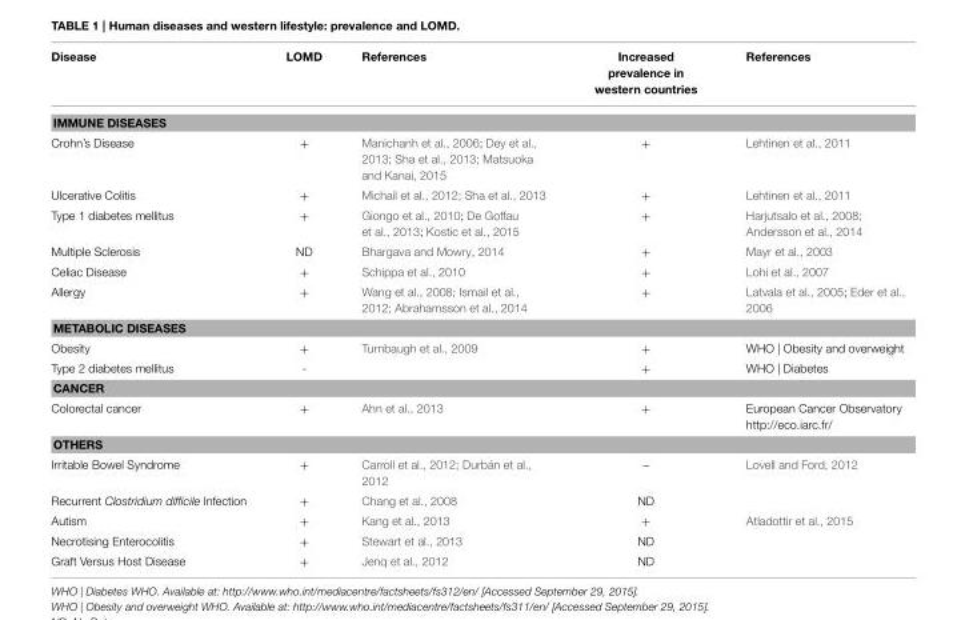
<table><thead><tr><td>Disease</td><td>LOMD</td><td>References</td><td>Increased prevalence in western countries</td><td>References</td></tr></thead><tbody><tr><td colspan="5">IMMUNE DISEASES</td></tr><tr><td>Crohn’s Disease</td><td>+</td><td>Manichanh et al., 2006; Dey et al., 2013; Sha et al., 2013; Matsuoka and Kanai, 2015</td><td>+</td><td>Lehtinen et al., 2011</td></tr><tr><td>Ulcerative Colitis</td><td>+</td><td>Michail et al., 2012; Sha et al., 2013</td><td>+</td><td>Lehtinen et al., 2011</td></tr><tr><td>Type 1 diabetes mellitus</td><td>+</td><td>Giongo et al., 2010; De Goffau et al., 2013; Kostic et al., 2015</td><td>+</td><td>Harjutsalo et al., 2008; Andersson et al., 2014</td></tr><tr><td>Multiple Sclerosis</td><td>ND</td><td>Bhargava and Mowry, 2014</td><td>+</td><td>Mayr et al., 2003</td></tr><tr><td>Celiac Disease</td><td>+</td><td>Schippa et al., 2010</td><td>+</td><td>Lohi et al., 2007</td></tr><tr><td>Allergy</td><td>+</td><td>Wang et al., 2008; Ismail et al., 2012; Abrahamsson et al., 2014</td><td>+</td><td>Latvala et al., 2005; Eder et al., 2006</td></tr><tr><td colspan="5">METABOLIC DISEASES</td></tr><tr><td>Obesity</td><td>+</td><td>Turnbaugh et al., 2009</td><td>+</td><td>WHO | Obesity and overweight</td></tr><tr><td>Type 2 diabetes mellitus</td><td>-</td><td></td><td>+</td><td>WHO | Diabetes</td></tr><tr><td colspan="5">CANCER</td></tr><tr><td>Colorectal cancer</td><td>+</td><td>Ahn et al., 2013</td><td>+</td><td>European Cancer Observatory http://eco.iarc.fr/</td></tr><tr><td colspan="5">OTHERS</td></tr><tr><td>Irritable Bowel Syndrome</td><td>+</td><td>Carroll et al., 2012; Durbán et al., 2012</td><td>–</td><td>Lovell and Ford, 2012</td></tr><tr><td>Recurrent Clostridium difficile Infection</td><td>+</td><td>Chang et al., 2008</td><td>ND</td><td></td></tr><tr><td>Autism</td><td>+</td><td>Kang et al., 2013</td><td>+</td><td>Atladottir et al., 2015</td></tr><tr><td>Necrotising Enterocolitis</td><td>+</td><td>Stewart et al., 2013</td><td>ND</td><td></td></tr><tr><td>Graft Versus Host Disease</td><td>+</td><td>Jenq et al., 2012</td><td>ND</td><td></td></tr></tbody></table>